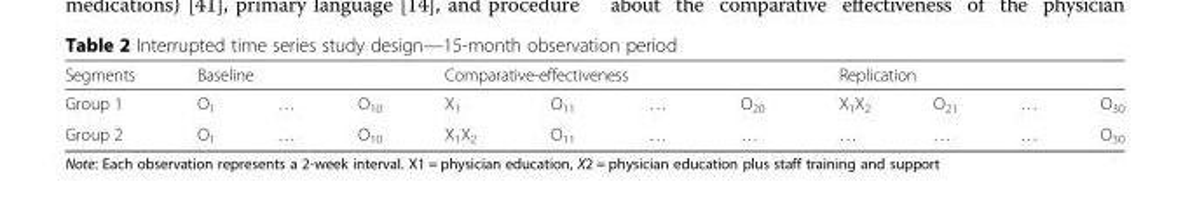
<table><thead><tr><td rowspan="2">Segments Group 1</td><td colspan="3">Baseline</td><td colspan="4">Comparative-effectiveness</td><td colspan="4">Replication</td></tr><tr><td>O<sub>1</sub></td><td>…</td><td>O<sub>10</sub></td><td>X<sub>1</sub></td><td>O<sub>11</sub></td><td>…</td><td>O<sub>20</sub></td><td>X<sub>1</sub>X<sub>2</sub></td><td>O<sub>21</sub></td><td>…</td><td>O<sub>30</sub></td></tr></thead><tbody><tr><td>Group 2</td><td>O<sub>1</sub></td><td>…</td><td>O<sub>10</sub></td><td>X<sub>1</sub>X<sub>2</sub></td><td>O<sub>11</sub></td><td>…</td><td>…</td><td>…</td><td>…</td><td>…</td><td>O<sub>30</sub></td></tr></tbody></table>